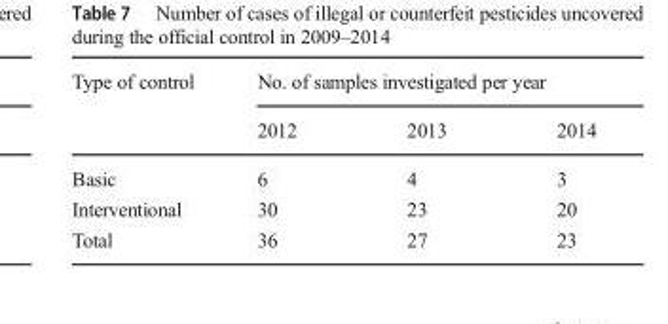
<table><thead><tr><td rowspan="2">Type of control</td><td colspan="3">No. of samples investigated per year</td></tr><tr><td>2012</td><td>2013</td><td>2014</td></tr></thead><tbody><tr><td>Basic</td><td>6</td><td>4</td><td>3</td></tr><tr><td>Interventional</td><td>30</td><td>23</td><td>20</td></tr><tr><td>Total</td><td>36</td><td>27</td><td>23</td></tr></tbody></table>